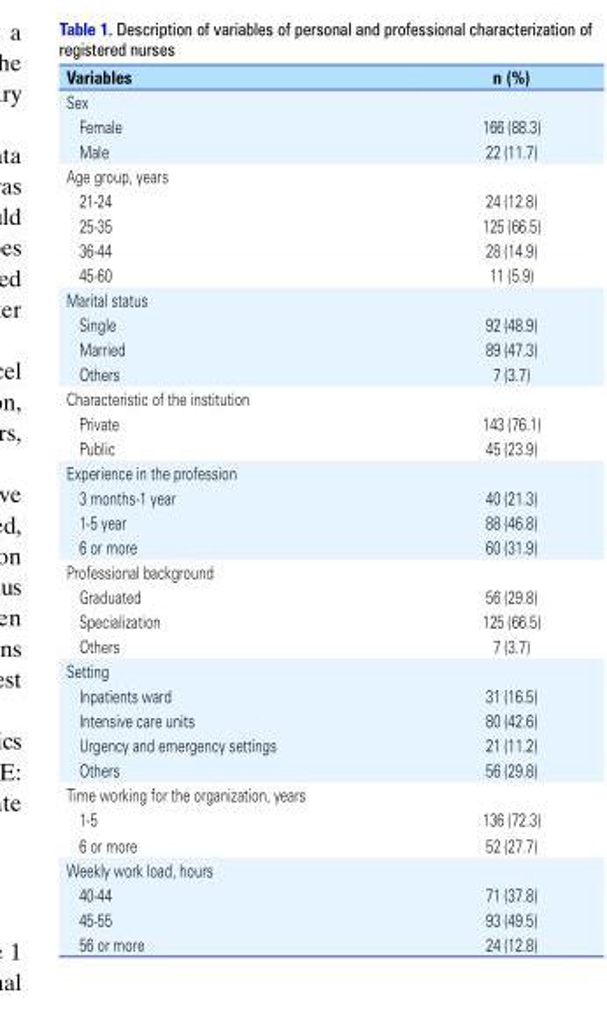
<table><thead><tr><td>Variables</td><td>n (%)</td></tr></thead><tbody><tr><td colspan="2">Sex</td></tr><tr><td>Female</td><td>166 (88.3)</td></tr><tr><td>Male</td><td>22 (11.7)</td></tr><tr><td colspan="2">Age group, years</td></tr><tr><td>21-24</td><td>24 (12.8)</td></tr><tr><td>25-35</td><td>125 (66.5)</td></tr><tr><td>36-44</td><td>28 (14.9)</td></tr><tr><td>45-60</td><td>11 (5.9)</td></tr><tr><td colspan="2">Marital status</td></tr><tr><td>Single</td><td>92 (48.9)</td></tr><tr><td>Married</td><td>89 (47.3)</td></tr><tr><td>Others</td><td>7 (3.7)</td></tr><tr><td colspan="2">Characteristic of the institution</td></tr><tr><td>Private</td><td>143 (76.1)</td></tr><tr><td>Public</td><td>45 (23.9)</td></tr><tr><td colspan="2">Experience in the profession</td></tr><tr><td>3 months-1 year</td><td>40 (21.3)</td></tr><tr><td>1-5 year</td><td>88 (46.8)</td></tr><tr><td>6 or more</td><td>60 (31.9)</td></tr><tr><td colspan="2">Professional background</td></tr><tr><td>Graduated</td><td>56 (29.8)</td></tr><tr><td>Specialization</td><td>125 (66.5)</td></tr><tr><td>Others</td><td>7 (3.7)</td></tr><tr><td colspan="2">Setting</td></tr><tr><td>Inpatients ward</td><td>31 (16.5)</td></tr><tr><td>Intensive care units</td><td>80 (42.6)</td></tr><tr><td>Urgency and emergency settings</td><td>21 (11.2)</td></tr><tr><td>Others</td><td>56 (29.8)</td></tr><tr><td colspan="2">Time working for the organization, years</td></tr><tr><td>1-5</td><td>136 (72.3)</td></tr><tr><td>6 or more</td><td>52 (27.7)</td></tr><tr><td colspan="2">Weekly work load, hours</td></tr><tr><td>40-44</td><td>71 (37.8)</td></tr><tr><td>45-55</td><td>93 (49.5)</td></tr><tr><td>56 or more</td><td>24 (12.8)</td></tr></tbody></table>